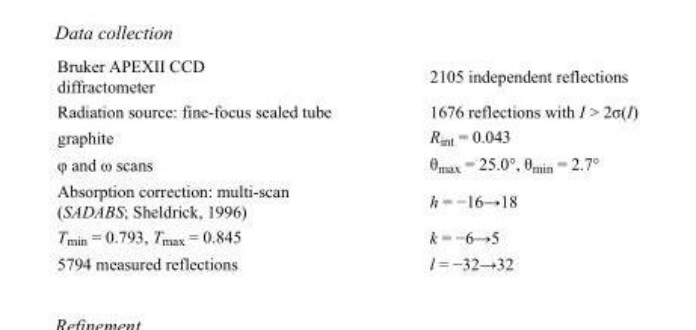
<table><tbody><tr><td>Bruker APEXII CCD diffractometer</td><td>2105 independent reflections</td></tr><tr><td>Radiation source: fine-focus sealed tube</td><td>1676 reflections with I &gt; 2σ(I)</td></tr><tr><td>graphite</td><td>R<sub>int</sub> = 0.043</td></tr><tr><td>φ and ω scans</td><td>θ<sub>max</sub> = 25.0°, θ<sub>min</sub> = 2.7°</td></tr><tr><td>Absorption correction: multi-scan (SADABS; Sheldrick, 1996)</td><td>h = −16→18</td></tr><tr><td>T<sub>min</sub> = 0.793, T<sub>max</sub> = 0.845</td><td>k = −6→5</td></tr><tr><td>5794 measured reflections</td><td>l = −32→32</td></tr></tbody></table>